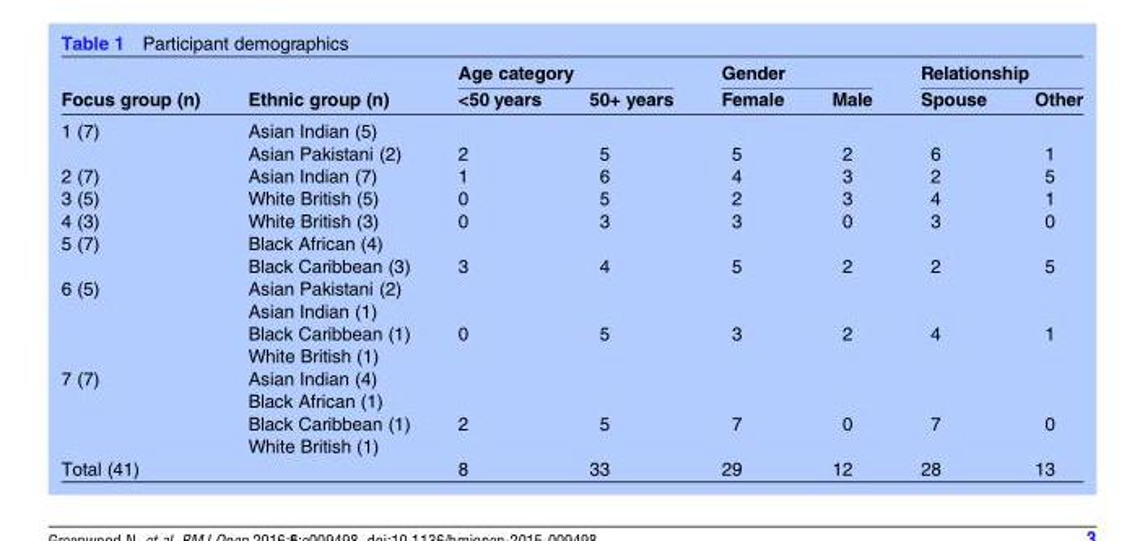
<table><thead><tr><td rowspan="2">Focus group (n)</td><td rowspan="2">Ethnic group (n)</td><td colspan="2">Age category</td><td colspan="2">Gender</td><td colspan="2">Relationship</td></tr><tr><td>&lt;50 years</td><td>50+ years</td><td>Female</td><td>Male</td><td>Spouse</td><td>Other</td></tr></thead><tbody><tr><td rowspan="2">1 (7)</td><td>Asian Indian (5)</td><td></td><td></td><td></td><td></td><td></td><td></td></tr><tr><td>Asian Pakistani (2)</td><td>2</td><td>5</td><td>5</td><td>2</td><td>6</td><td>1</td></tr><tr><td>2 (7)</td><td>Asian Indian (7)</td><td>1</td><td>6</td><td>4</td><td>3</td><td>2</td><td>5</td></tr><tr><td>3 (5)</td><td>White British (5)</td><td>0</td><td>5</td><td>2</td><td>3</td><td>4</td><td>1</td></tr><tr><td>4 (3)</td><td>White British (3)</td><td>0</td><td>3</td><td>3</td><td>0</td><td>3</td><td>0</td></tr><tr><td rowspan="2">5 (7)</td><td>Black African (4)</td><td></td><td></td><td></td><td></td><td></td><td></td></tr><tr><td>Black Caribbean (3)</td><td>3</td><td>4</td><td>5</td><td>2</td><td>2</td><td>5</td></tr><tr><td rowspan="4">6 (5)</td><td>Asian Pakistani (2)</td><td></td><td></td><td></td><td></td><td></td><td></td></tr><tr><td>Asian Indian (1)</td><td></td><td></td><td></td><td></td><td></td><td></td></tr><tr><td>Black Caribbean (1)</td><td>0</td><td>5</td><td>3</td><td>2</td><td>4</td><td>1</td></tr><tr><td>White British (1)</td><td></td><td></td><td></td><td></td><td></td><td></td></tr><tr><td rowspan="4">7 (7)</td><td>Asian Indian (4)</td><td></td><td></td><td></td><td></td><td></td><td></td></tr><tr><td>Black African (1)</td><td></td><td></td><td></td><td></td><td></td><td></td></tr><tr><td>Black Caribbean (1)</td><td>2</td><td>5</td><td>7</td><td>0</td><td>7</td><td>0</td></tr><tr><td>White British (1)</td><td></td><td></td><td></td><td></td><td></td><td></td></tr><tr><td>Total (41)</td><td></td><td>8</td><td>33</td><td>29</td><td>12</td><td>28</td><td>13</td></tr></tbody></table>